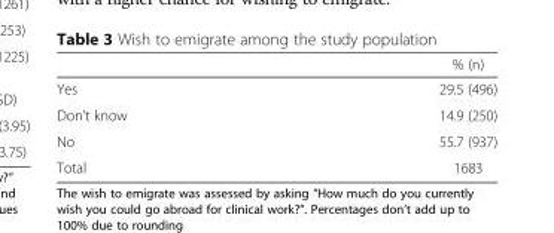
<table><thead><tr><td></td><td>% (n)</td></tr></thead><tbody><tr><td>Yes</td><td>29.5 (496)</td></tr><tr><td>Don’t know</td><td>14.9 (250)</td></tr><tr><td>No</td><td>55.7 (937)</td></tr><tr><td>Total</td><td>1683</td></tr></tbody></table>